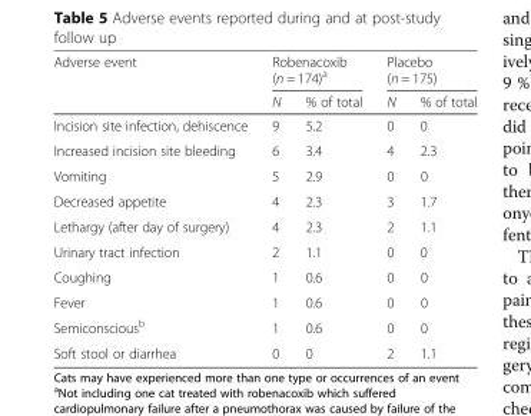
<table><thead><tr><td rowspan="2">Adverse event</td><td colspan="2">Robenacoxib (n = 174)<sup>a</sup></td><td colspan="2">Placebo (n = 175)</td></tr><tr><td>N</td><td>% of total</td><td>N</td><td>% of total</td></tr></thead><tbody><tr><td>Incision site infection, dehiscence</td><td>9</td><td>5.2</td><td>0</td><td>0</td></tr><tr><td>Increased incision site bleeding</td><td>6</td><td>3.4</td><td>4</td><td>2.3</td></tr><tr><td>Vomiting</td><td>5</td><td>2.9</td><td>0</td><td>0</td></tr><tr><td>Decreased appetite</td><td>4</td><td>2.3</td><td>3</td><td>1.7</td></tr><tr><td>Lethargy (after day of surgery)</td><td>4</td><td>2.3</td><td>2</td><td>1.1</td></tr><tr><td>Urinary tract infection</td><td>2</td><td>1.1</td><td>0</td><td>0</td></tr><tr><td>Coughing</td><td>1</td><td>0.6</td><td>0</td><td>0</td></tr><tr><td>Fever</td><td>1</td><td>0.6</td><td>0</td><td>0</td></tr><tr><td>Semiconscious<sup>b</sup></td><td>1</td><td>0.6</td><td>0</td><td>0</td></tr><tr><td>Soft stool or diarrhea</td><td>0</td><td>0</td><td>2</td><td>1.1</td></tr></tbody></table>